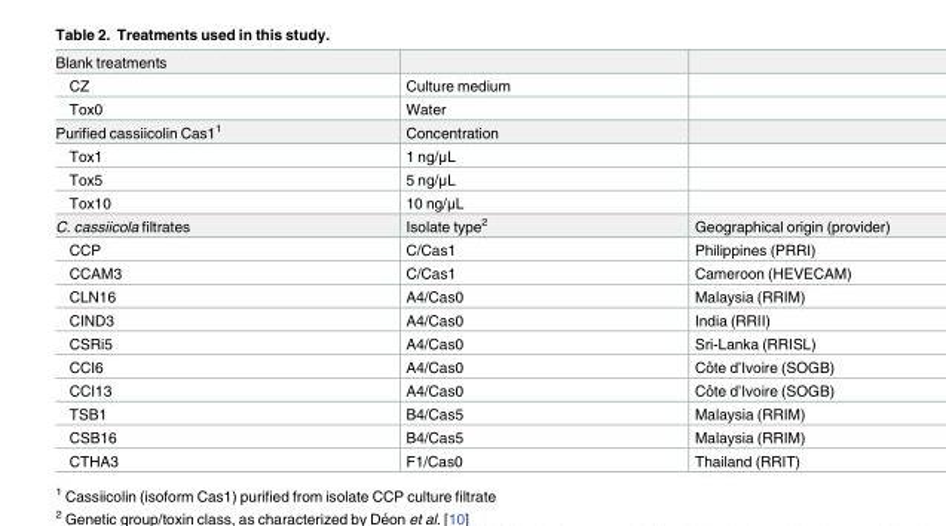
<table><tbody><tr><td colspan="3">Blank treatments</td></tr><tr><td>CZ</td><td>Culture medium</td><td></td></tr><tr><td>Tox0</td><td>Water</td><td></td></tr><tr><td>Purified cassiicolin Cas1<sup>1</sup></td><td>Concentration</td><td></td></tr><tr><td>Tox1</td><td>1 ng/μL</td><td></td></tr><tr><td>Tox5</td><td>5 ng/μL</td><td></td></tr><tr><td>Tox10</td><td>10 ng/μL</td><td></td></tr><tr><td>C. cassiicola filtrates</td><td>Isolate type<sup>2</sup></td><td>Geographical origin (provider)</td></tr><tr><td>CCP</td><td>C/Cas1</td><td>Philippines (PRRI)</td></tr><tr><td>CCAM3</td><td>C/Cas1</td><td>Cameroon (HEVECAM)</td></tr><tr><td>CLN16</td><td>A4/Cas0</td><td>Malaysia (RRIM)</td></tr><tr><td>CIND3</td><td>A4/Cas0</td><td>India (RRII)</td></tr><tr><td>CSRi5</td><td>A4/Cas0</td><td>Sri-Lanka (RRISL)</td></tr><tr><td>CCI6</td><td>A4/Cas0</td><td>Coˆte d’Ivoire (SOGB)</td></tr><tr><td>CCI13</td><td>A4/Cas0</td><td>Coˆte d’Ivoire (SOGB)</td></tr><tr><td>TSB1</td><td>B4/Cas5</td><td>Malaysia (RRIM)</td></tr><tr><td>CSB16</td><td>B4/Cas5</td><td>Malaysia (RRIM)</td></tr><tr><td>CTHA3</td><td>F1/Cas0</td><td>Thailand (RRIT)</td></tr></tbody></table>